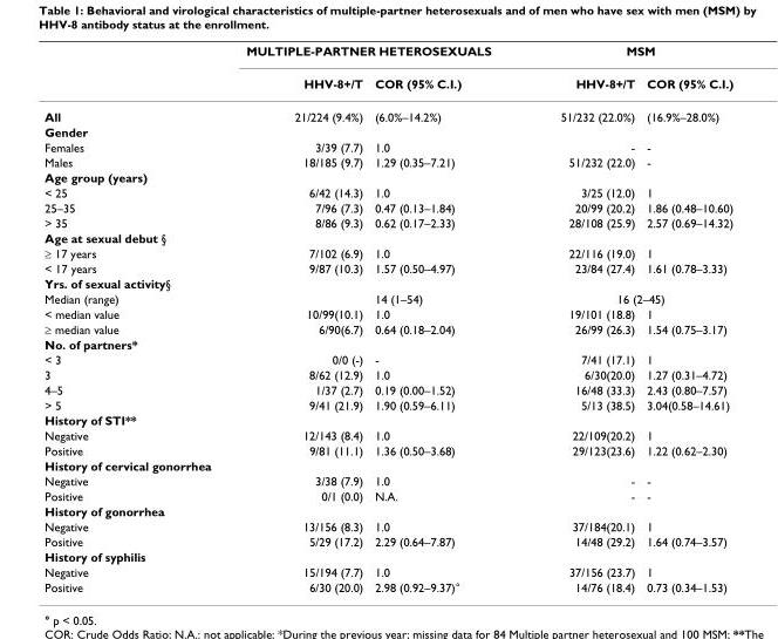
<table><thead><tr><td rowspan="2"></td><td colspan="2">MULTIPLE-PARTNER HETEROSEXUALS</td><td colspan="2">MSM</td></tr><tr><td>HHV-8+/T</td><td>COR (95% C.I.)</td><td>HHV-8+/T</td><td>COR (95% C.I.)</td></tr></thead><tbody><tr><td>All</td><td>21/224 (9.4%)</td><td>(6.0%–14.2%)</td><td>51/232 (22.0%)</td><td>(16.9%–28.0%)</td></tr><tr><td colspan="5">Gender</td></tr><tr><td>Females</td><td>3/39 (7.7)</td><td>1.0</td><td>-</td><td>-</td></tr><tr><td>Males</td><td>18/185 (9.7)</td><td>1.29 (0.35–7.21)</td><td>51/232 (22.0)</td><td>-</td></tr><tr><td colspan="5">Age group (years)</td></tr><tr><td>&lt; 25</td><td>6/42 (14.3)</td><td>1.0</td><td>3/25 (12.0)</td><td>1</td></tr><tr><td>25–35</td><td>7/96 (7.3)</td><td>0.47 (0.13–1.84)</td><td>20/99 (20.2)</td><td>1.86 (0.48–10.60)</td></tr><tr><td>&gt; 35</td><td>8/86 (9.3)</td><td>0.62 (0.17–2.33)</td><td>28/108 (25.9)</td><td>2.57 (0.69–14.32)</td></tr><tr><td colspan="5">Age at sexual debut §</td></tr><tr><td>≥ 17 years</td><td>7/102 (6.9)</td><td>1.0</td><td>22/116 (19.0)</td><td>1</td></tr><tr><td>&lt; 17 years</td><td>9/87 (10.3)</td><td>1.57 (0.50–4.97)</td><td>23/84 (27.4)</td><td>1.61 (0.78–3.33)</td></tr><tr><td colspan="5">Yrs. of sexual activity§</td></tr><tr><td>Median (range)</td><td></td><td>14 (1–54)</td><td colspan="2">16 (2–45)</td></tr><tr><td>&lt; median value</td><td>10/99(10.1)</td><td>1.0</td><td>19/101 (18.8)</td><td>1</td></tr><tr><td>≥ median value</td><td>6/90(6.7)</td><td>0.64 (0.18–2.04)</td><td>26/99 (26.3)</td><td>1.54 (0.75–3.17)</td></tr><tr><td colspan="5">No. of partners*</td></tr><tr><td>&lt; 3</td><td>0/0 (-)</td><td>-</td><td>7/41 (17.1)</td><td>1</td></tr><tr><td>3</td><td>8/62 (12.9)</td><td>1.0</td><td>6/30(20.0)</td><td>1.27 (0.31–4.72)</td></tr><tr><td>4–5</td><td>1/37 (2.7)</td><td>0.19 (0.00–1.52)</td><td>16/48 (33.3)</td><td>2.43 (0.80–7.57)</td></tr><tr><td>&gt; 5</td><td>9/41 (21.9)</td><td>1.90 (0.59–6.11)</td><td>5/13 (38.5)</td><td>3.04(0.58–14.61)</td></tr><tr><td colspan="5">History of STI**</td></tr><tr><td>Negative</td><td>12/143 (8.4)</td><td>1.0</td><td>22/109(20.2)</td><td>1</td></tr><tr><td>Positive</td><td>9/81 (11.1)</td><td>1.36 (0.50–3.68)</td><td>29/123(23.6)</td><td>1.22 (0.62–2.30)</td></tr><tr><td colspan="5">History of cervical gonorrhea</td></tr><tr><td>Negative</td><td>3/38 (7.9)</td><td>1.0</td><td>-</td><td>-</td></tr><tr><td>Positive</td><td>0/1 (0.0)</td><td>N.A.</td><td>-</td><td>-</td></tr><tr><td colspan="5">History of gonorrhea</td></tr><tr><td>Negative</td><td>13/156 (8.3)</td><td>1.0</td><td>37/184(20.1)</td><td>1</td></tr><tr><td>Positive</td><td>5/29 (17.2)</td><td>2.29 (0.64–7.87)</td><td>14/48 (29.2)</td><td>1.64 (0.74–3.57)</td></tr><tr><td colspan="5">History of syphilis</td></tr><tr><td>Negative</td><td>15/194 (7.7)</td><td>1.0</td><td>37/156 (23.7)</td><td>1</td></tr><tr><td>Positive</td><td>6/30 (20.0)</td><td>2.98 (0.92–9.37)°</td><td>14/76 (18.4)</td><td>0.73 (0.34–1.53)</td></tr></tbody></table>